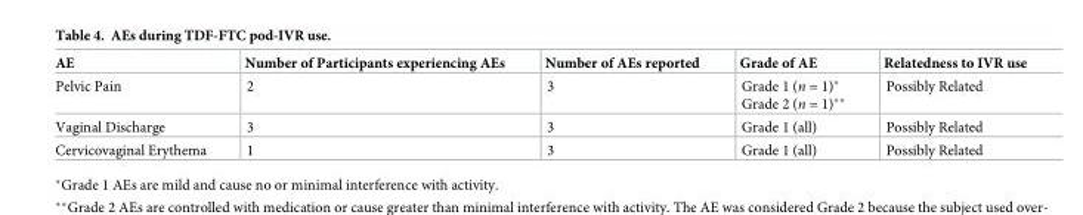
<table><thead><tr><td>AE</td><td>Number of Participants experiencing AEs</td><td>Number of AEs reported</td><td>Grade of AE</td><td>Relatedness to IVR use</td></tr></thead><tbody><tr><td>Pelvic Pain</td><td>2</td><td>3</td><td>Grade 1 (n = 1)* Grade 2 (n = 1)**</td><td>Possibly Related</td></tr><tr><td>Vaginal Discharge</td><td>3</td><td>3</td><td>Grade 1 (all)</td><td>Possibly Related</td></tr><tr><td>Cervicovaginal Erythema</td><td>1</td><td>3</td><td>Grade 1 (all)</td><td>Possibly Related</td></tr></tbody></table>